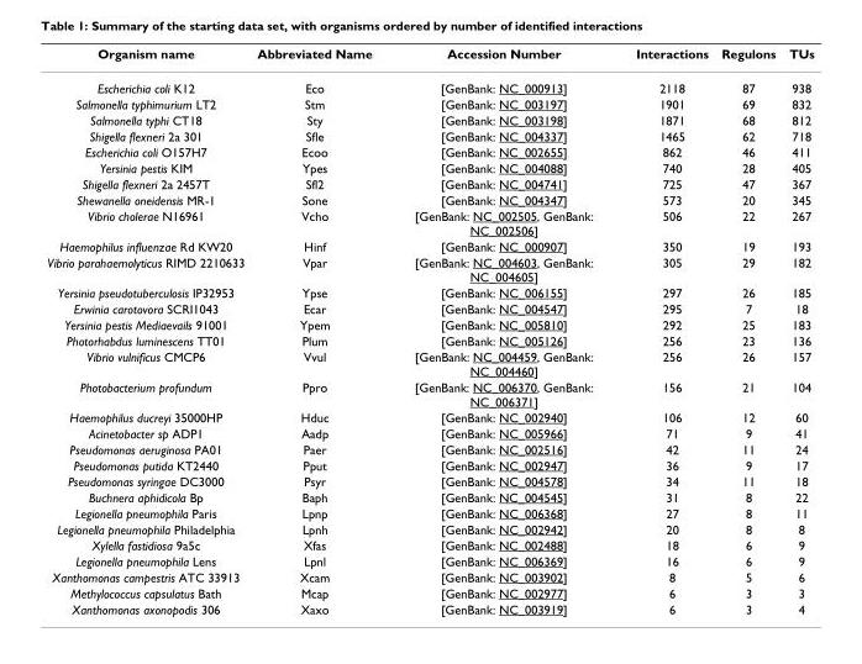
<table><thead><tr><td>Organism name</td><td>Abbreviated Name</td><td>Accession Number</td><td>Interactions</td><td>Regulons</td><td>TUs</td></tr></thead><tbody><tr><td>Escherichia coli K12</td><td>Eco</td><td>[GenBank: NC_000913]</td><td>2118</td><td>87</td><td>938</td></tr><tr><td>Salmonella typhimurium LT2</td><td>Stm</td><td>[GenBank: NC_003197]</td><td>1901</td><td>69</td><td>832</td></tr><tr><td>Salmonella typhi CT18</td><td>Sty</td><td>[GenBank: NC_003198]</td><td>1871</td><td>68</td><td>812</td></tr><tr><td>Shigella flexneri 2a 301</td><td>Sfle</td><td>[GenBank: NC_004337]</td><td>1465</td><td>62</td><td>718</td></tr><tr><td>Escherichia coli O157H7</td><td>Ecoo</td><td>[GenBank: NC_002655]</td><td>862</td><td>46</td><td>411</td></tr><tr><td>Yersinia pestis KIM</td><td>Ypes</td><td>[GenBank: NC_004088]</td><td>740</td><td>28</td><td>405</td></tr><tr><td>Shigella flexneri 2a 2457T</td><td>Sfl2</td><td>[GenBank: NC_004741]</td><td>725</td><td>47</td><td>367</td></tr><tr><td>Shewanella oneidensis MR-1</td><td>Sone</td><td>[GenBank: NC_004347]</td><td>573</td><td>20</td><td>345</td></tr><tr><td>Vibrio cholerae N16961</td><td>Vcho</td><td>[GenBank: NC_002505, GenBank: NC_002506]</td><td>506</td><td>22</td><td>267</td></tr><tr><td>Haemophilus influenzae Rd KW20</td><td>Hinf</td><td>[GenBank: NC_000907]</td><td>350</td><td>19</td><td>193</td></tr><tr><td>Vibrio parahaemolyticus RIMD 2210633</td><td>Vpar</td><td>[GenBank: NC_004603, GenBank: NC_004605]</td><td>305</td><td>29</td><td>182</td></tr><tr><td>Yersinia pseudotuberculosis IP32953</td><td>Ypse</td><td>[GenBank: NC_006155]</td><td>297</td><td>26</td><td>185</td></tr><tr><td>Erwinia carotovora SCRI1043</td><td>Ecar</td><td>[GenBank: NC_004547]</td><td>295</td><td>7</td><td>18</td></tr><tr><td>Yersinia pestis Mediaevails 91001</td><td>Ypem</td><td>[GenBank: NC_005810]</td><td>292</td><td>25</td><td>183</td></tr><tr><td>Photorhabdus luminescens TT01</td><td>Plum</td><td>[GenBank: NC_005126]</td><td>256</td><td>23</td><td>136</td></tr><tr><td>Vibrio vulnificus CMCP6</td><td>Vvul</td><td>[GenBank: NC_004459, GenBank: NC_004460]</td><td>256</td><td>26</td><td>157</td></tr><tr><td>Photobacterium profundum</td><td>Ppro</td><td>[GenBank: NC_006370, GenBank: NC_006371]</td><td>156</td><td>21</td><td>104</td></tr><tr><td>Haemophilus ducreyi 35000HP</td><td>Hduc</td><td>[GenBank: NC_002940]</td><td>106</td><td>12</td><td>60</td></tr><tr><td>Acinetobacter sp ADP1</td><td>Aadp</td><td>[GenBank: NC_005966]</td><td>71</td><td>9</td><td>41</td></tr><tr><td>Pseudomonas aeruginosa PA01</td><td>Paer</td><td>[GenBank: NC_002516]</td><td>42</td><td>11</td><td>24</td></tr><tr><td>Pseudomonas putida KT2440</td><td>Pput</td><td>[GenBank: NC_002947]</td><td>36</td><td>9</td><td>17</td></tr><tr><td>Pseudomonas syringae DC3000</td><td>Psyr</td><td>[GenBank: NC_004578]</td><td>34</td><td>11</td><td>18</td></tr><tr><td>Buchnera aphidicola Bp</td><td>Baph</td><td>[GenBank: NC_004545]</td><td>31</td><td>8</td><td>22</td></tr><tr><td>Legionella pneumophila Paris</td><td>Lpnp</td><td>[GenBank: NC_006368]</td><td>27</td><td>8</td><td>11</td></tr><tr><td>Legionella pneumophila Philadelphia</td><td>Lpnh</td><td>[GenBank: NC_002942]</td><td>20</td><td>8</td><td>8</td></tr><tr><td>Xylella fastidiosa 9a5c</td><td>Xfas</td><td>[GenBank: NC_002488]</td><td>18</td><td>6</td><td>9</td></tr><tr><td>Legionella pneumophila Lens</td><td>Lpnl</td><td>[GenBank: NC_006369]</td><td>16</td><td>6</td><td>9</td></tr><tr><td>Xanthomonas campestris ATC 33913</td><td>Xcam</td><td>[GenBank: NC_003902]</td><td>8</td><td>5</td><td>6</td></tr><tr><td>Methylococcus capsulatus Bath</td><td>Mcap</td><td>[GenBank: NC_002977]</td><td>6</td><td>3</td><td>3</td></tr><tr><td>Xanthomonas axonopodis 306</td><td>Xaxo</td><td>[GenBank: NC_003919]</td><td>6</td><td>3</td><td>4</td></tr></tbody></table>